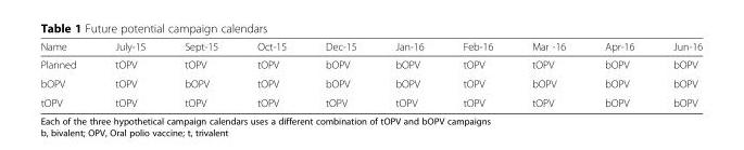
<table><thead><tr><td>Name</td><td>July-15</td><td>Sept-15</td><td>Oct-15</td><td>Dec-15</td><td>Jan-16</td><td>Feb-16</td><td>Mar -16</td><td>Apr-16</td><td>Jun-16</td></tr></thead><tbody><tr><td>Planned</td><td>tOPV</td><td>tOPV</td><td>tOPV</td><td>bOPV</td><td>bOPV</td><td>tOPV</td><td>tOPV</td><td>bOPV</td><td>bOPV</td></tr><tr><td>bOPV</td><td>tOPV</td><td>bOPV</td><td>tOPV</td><td>bOPV</td><td>bOPV</td><td>tOPV</td><td>bOPV</td><td>bOPV</td><td>bOPV</td></tr><tr><td>tOPV</td><td>tOPV</td><td>tOPV</td><td>tOPV</td><td>tOPV</td><td>tOPV</td><td>tOPV</td><td>tOPV</td><td>bOPV</td><td>bOPV</td></tr></tbody></table>